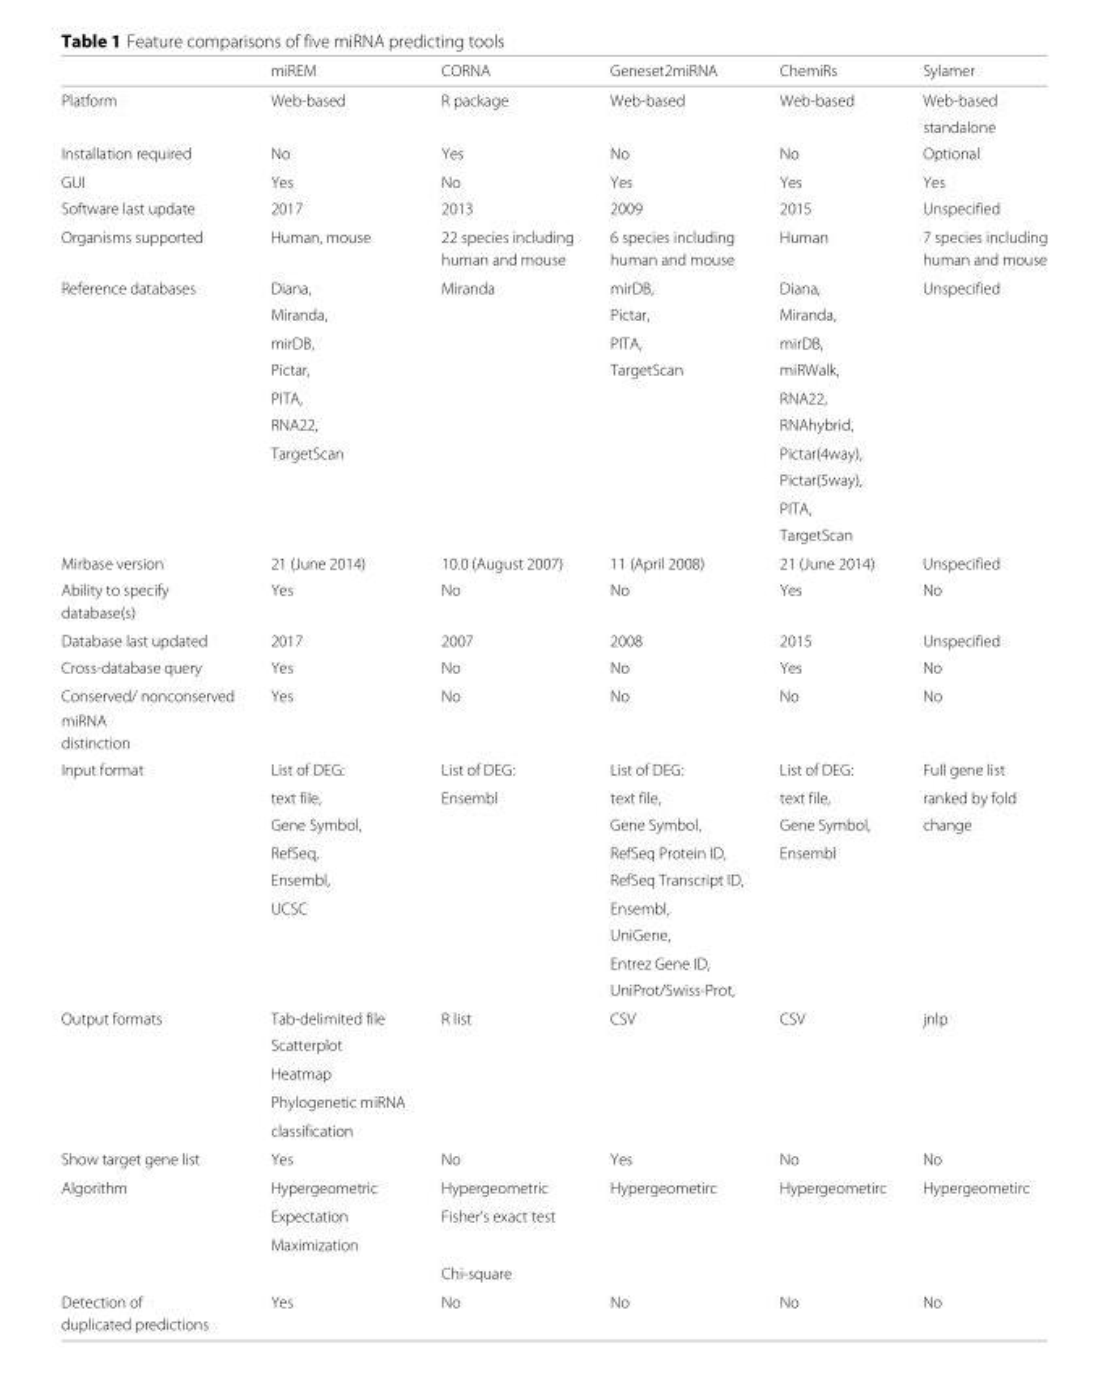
<table><thead><tr><td></td><td>miREM</td><td>CORNA</td><td>Geneset2miRNA</td><td>ChemiRs</td><td>Sylamer</td></tr></thead><tbody><tr><td rowspan="2">Platform</td><td>Web-based</td><td>R package</td><td>Web-based</td><td>Web-based</td><td>Web-based</td></tr><tr><td></td><td></td><td></td><td></td><td>standalone</td></tr><tr><td>Installation required</td><td>No</td><td>Yes</td><td>No</td><td>No</td><td>Optional</td></tr><tr><td>GUI</td><td>Yes</td><td>No</td><td>Yes</td><td>Yes</td><td>Yes</td></tr><tr><td>Software last update</td><td>2017</td><td>2013</td><td>2009</td><td>2015</td><td>Unspecified</td></tr><tr><td rowspan="2">Organisms supported</td><td>Human, mouse</td><td>22 species including</td><td>6 species including</td><td>Human</td><td>7 species including</td></tr><tr><td></td><td>human and mouse</td><td>human and mouse</td><td></td><td>human and mouse</td></tr><tr><td rowspan="10">Reference databases</td><td>Diana,</td><td>Miranda</td><td>mirDB,</td><td>Diana,</td><td>Unspecified</td></tr><tr><td>Miranda,</td><td></td><td>Pictar,</td><td>Miranda,</td><td></td></tr><tr><td>mirDB,</td><td></td><td>PITA,</td><td>mirDB,</td><td></td></tr><tr><td>Pictar,</td><td></td><td>TargetScan</td><td>miRWalk,</td><td></td></tr><tr><td>PITA,</td><td></td><td></td><td>RNA22,</td><td></td></tr><tr><td>RNA22,</td><td></td><td></td><td>RNAhybrid,</td><td></td></tr><tr><td>TargetScan</td><td></td><td></td><td>Pictar(4way),</td><td></td></tr><tr><td></td><td></td><td></td><td>Pictar(5way),</td><td></td></tr><tr><td></td><td></td><td></td><td>PITA,</td><td></td></tr><tr><td></td><td></td><td></td><td>TargetScan</td><td></td></tr><tr><td>Mirbase version</td><td>21 (June 2014)</td><td>10.0 (August 2007)</td><td>11 (April 2008)</td><td>21 (June 2014)</td><td>Unspecified</td></tr><tr><td>Ability to specify</td><td>Yes</td><td>No</td><td>No</td><td>Yes</td><td>No</td></tr><tr><td colspan="6">database(s)</td></tr><tr><td>Database last updated</td><td>2017</td><td>2007</td><td>2008</td><td>2015</td><td>Unspecified</td></tr><tr><td>Cross-database query</td><td>Yes</td><td>No</td><td>No</td><td>Yes</td><td>No</td></tr><tr><td>Conserved/ nonconserved</td><td>Yes</td><td>No</td><td>No</td><td>No</td><td>No</td></tr><tr><td colspan="6">miRNA</td></tr><tr><td colspan="6">distinction</td></tr><tr><td rowspan="9">Input format</td><td>List of DEG:</td><td>List of DEG:</td><td>List of DEG:</td><td>List of DEG:</td><td>Full gene list</td></tr><tr><td>text file,</td><td>Ensembl</td><td>text file,</td><td>text file,</td><td>ranked by fold</td></tr><tr><td>Gene Symbol,</td><td></td><td>Gene Symbol,</td><td>Gene Symbol,</td><td>change</td></tr><tr><td>RefSeq,</td><td></td><td>RefSeq Protein ID,</td><td>Ensembl</td><td></td></tr><tr><td>Ensembl,</td><td></td><td>RefSeq Transcript ID,</td><td></td><td></td></tr><tr><td>UCSC</td><td></td><td>Ensembl,</td><td></td><td></td></tr><tr><td></td><td></td><td>UniGene,</td><td></td><td></td></tr><tr><td></td><td></td><td>Entrez Gene ID,</td><td></td><td></td></tr><tr><td></td><td></td><td>UniProt/Swiss-Prot,</td><td></td><td></td></tr><tr><td rowspan="5">Output formats</td><td>Tab-delimited file</td><td>R list</td><td>CSV</td><td>CSV</td><td>jnlp</td></tr><tr><td>Scatterplot</td><td></td><td></td><td></td><td></td></tr><tr><td>Heatmap</td><td></td><td></td><td></td><td></td></tr><tr><td>Phylogenetic miRNA</td><td></td><td></td><td></td><td></td></tr><tr><td>classification</td><td></td><td></td><td></td><td></td></tr><tr><td>Show target gene list</td><td>Yes</td><td>No</td><td>Yes</td><td>No</td><td>No</td></tr><tr><td rowspan="4">Algorithm</td><td>Hypergeometric</td><td>Hypergeometric</td><td>Hypergeometirc</td><td>Hypergeometirc</td><td>Hypergeometirc</td></tr><tr><td>Expectation</td><td>Fisher’s exact test</td><td></td><td></td><td></td></tr><tr><td>Maximization</td><td></td><td></td><td></td><td></td></tr><tr><td></td><td>Chi-square</td><td></td><td></td><td></td></tr><tr><td>Detection of</td><td>Yes</td><td>No</td><td>No</td><td>No</td><td>No</td></tr><tr><td>duplicated predictions</td><td></td><td></td><td></td><td></td><td></td></tr></tbody></table>